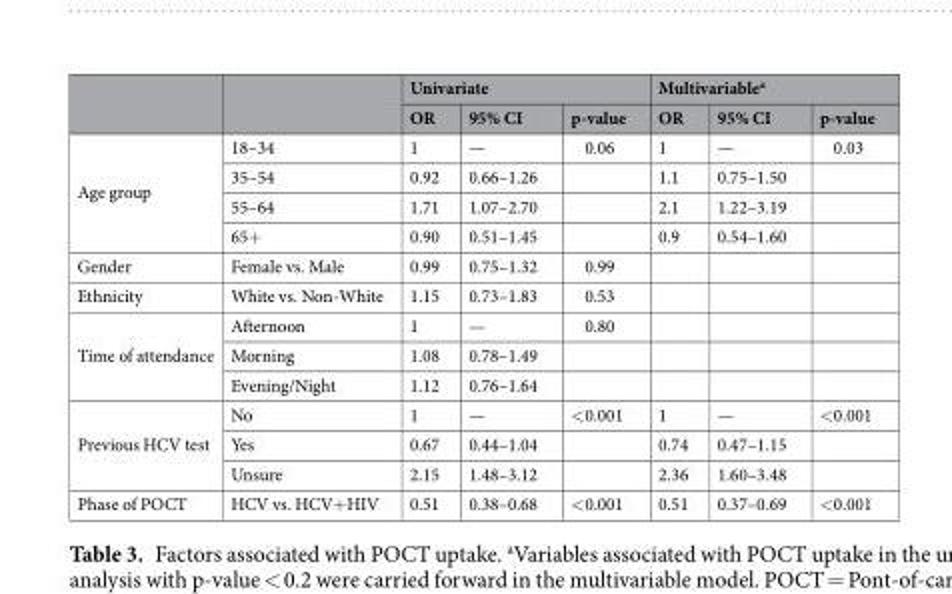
<table><thead><tr><td rowspan="2"></td><td rowspan="2"></td><td colspan="3">Univariate</td><td colspan="3">Multivariable<sup>a</sup></td></tr><tr><td>OR</td><td>95% CI</td><td>p-value</td><td>OR</td><td>95% CI</td><td>p-value</td></tr></thead><tbody><tr><td rowspan="4">Age group</td><td>18–34</td><td>1</td><td>—</td><td>0.06</td><td>1</td><td>—</td><td>0.03</td></tr><tr><td>35–54</td><td>0.92</td><td>0.66–1.26</td><td></td><td>1.1</td><td>0.75–1.50</td><td></td></tr><tr><td>55–64</td><td>1.71</td><td>1.07–2.70</td><td></td><td>2.1</td><td>1.22–3.19</td><td></td></tr><tr><td>65+</td><td>0.90</td><td>0.51–1.45</td><td></td><td>0.9</td><td>0.54–1.60</td><td></td></tr><tr><td>Gender</td><td>Female vs. Male</td><td>0.99</td><td>0.75–1.32</td><td>0.99</td><td></td><td></td><td></td></tr><tr><td>Ethnicity</td><td>White vs. Non-White</td><td>1.15</td><td>0.73–1.83</td><td>0.53</td><td></td><td></td><td></td></tr><tr><td rowspan="3">Time of attendance</td><td>Afternoon</td><td>1</td><td>—</td><td>0.80</td><td></td><td></td><td></td></tr><tr><td>Morning</td><td>1.08</td><td>0.78–1.49</td><td></td><td></td><td></td><td></td></tr><tr><td>Evening/Night</td><td>1.12</td><td>0.76–1.64</td><td></td><td></td><td></td><td></td></tr><tr><td rowspan="3">Previous HCV test</td><td>No</td><td>1</td><td>—</td><td>&lt;0.001</td><td>1</td><td>—</td><td>&lt;0.001</td></tr><tr><td>Yes</td><td>0.67</td><td>0.44–1.04</td><td></td><td>0.74</td><td>0.47–1.15</td><td></td></tr><tr><td>Unsure</td><td>2.15</td><td>1.48–3.12</td><td></td><td>2.36</td><td>1.60–3.48</td><td></td></tr><tr><td>Phase of POCT</td><td>HCV vs. HCV+HIV</td><td>0.51</td><td>0.38–0.68</td><td>&lt;0.001</td><td>0.51</td><td>0.37–0.69</td><td>&lt;0.001</td></tr></tbody></table>